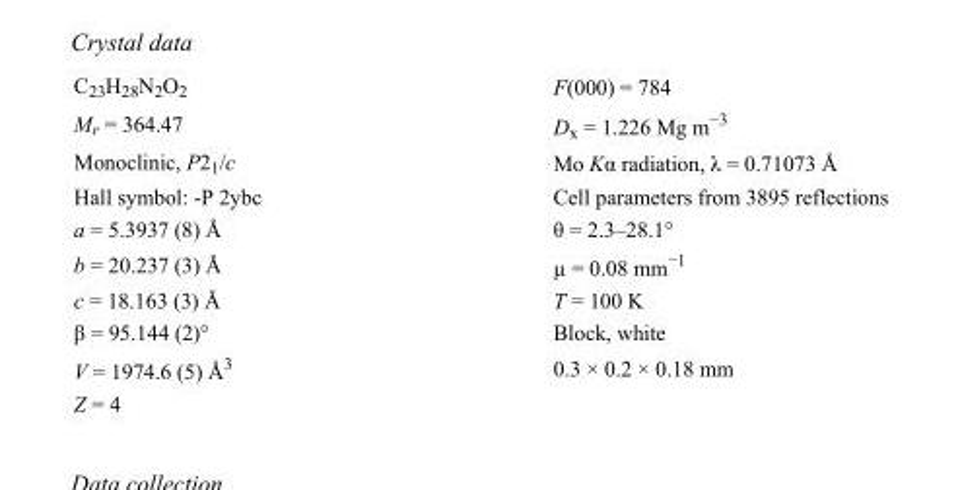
<table><tbody><tr><td>C<sub>23</sub>H<sub>28</sub>N<sub>2</sub>O<sub>2</sub></td><td>F(000) = 784</td></tr><tr><td>M<sub>r</sub> = 364.47</td><td>D<sub>x</sub> = 1.226 Mg m<sup>−3</sup></td></tr><tr><td>Monoclinic, P2<sub>1</sub>/c</td><td>Mo Kα radiation, λ = 0.71073 Å</td></tr><tr><td>Hall symbol: -P 2ybc</td><td>Cell parameters from 3895 reflections</td></tr><tr><td>a = 5.3937 (8) Å</td><td>θ = 2.3–28.1°</td></tr><tr><td>b = 20.237 (3) Å</td><td>µ = 0.08 mm<sup>−1</sup></td></tr><tr><td>c = 18.163 (3) Å</td><td>T = 100 K</td></tr><tr><td>β = 95.144 (2)°</td><td>Block, white</td></tr><tr><td>V = 1974.6 (5) Å<sup>3</sup></td><td>0.3 × 0.2 × 0.18 mm</td></tr><tr><td>Z = 4</td><td></td></tr></tbody></table>